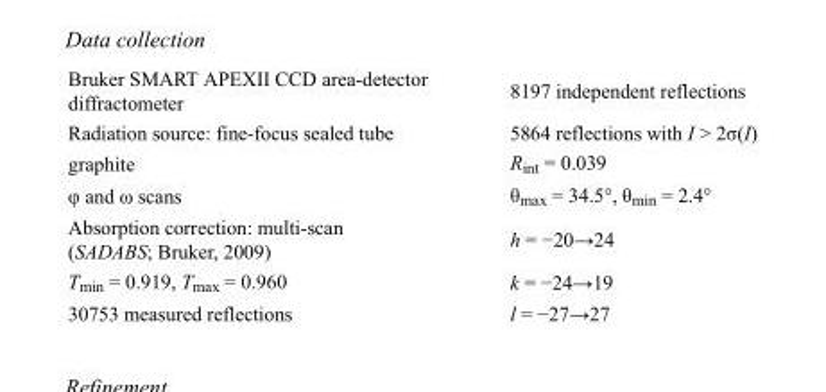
<table><tbody><tr><td>Bruker SMART APEXII CCD area-detector diffractometer</td><td>8197 independent reflections</td></tr><tr><td>Radiation source: fine-focus sealed tube</td><td>5864 reflections with I &gt; 2σ(I)</td></tr><tr><td>graphite</td><td>R<sub>int</sub> = 0.039</td></tr><tr><td>φ and ω scans</td><td>θ<sub>max</sub> = 34.5°, θ<sub>min</sub> = 2.4°</td></tr><tr><td>Absorption correction: multi-scan (SADABS; Bruker, 2009)</td><td>h = −20→24</td></tr><tr><td>T<sub>min</sub> = 0.919, T<sub>max</sub> = 0.960</td><td>k = −24→19</td></tr><tr><td>30753 measured reflections</td><td>l = −27→27</td></tr></tbody></table>